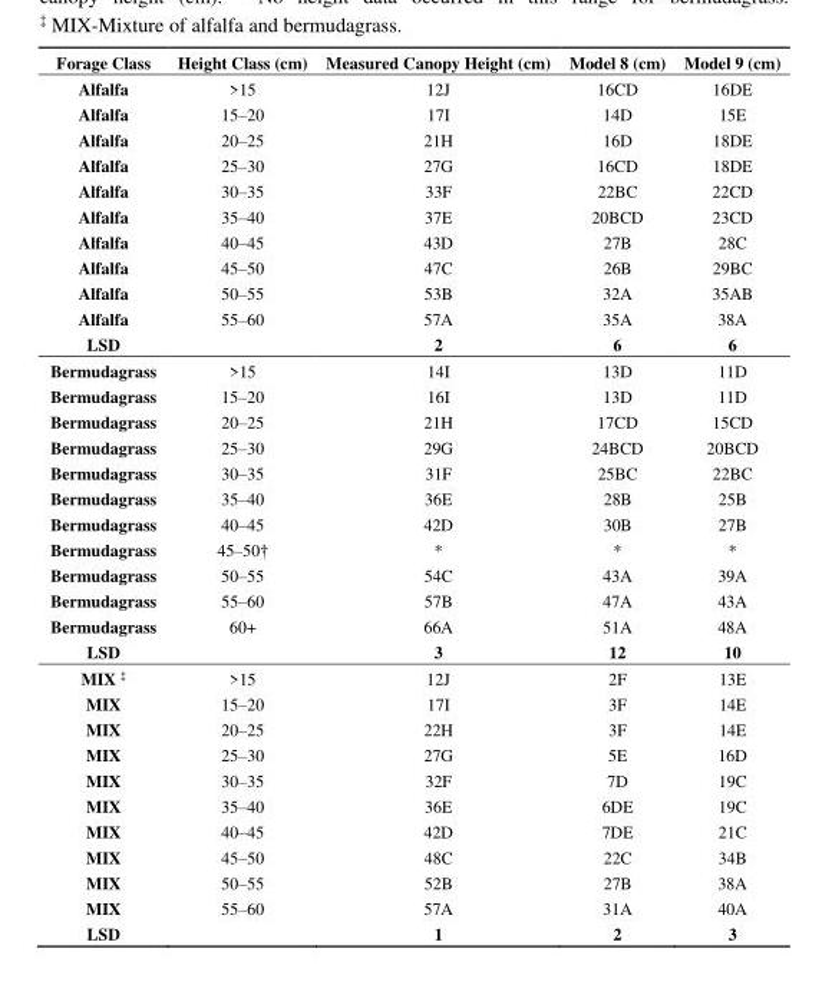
<table><thead><tr><td>Forage Class</td><td>Height Class (cm)</td><td>Measured Canopy Height (cm)</td><td>Model 8 (cm)</td><td>Model 9 (cm)</td></tr></thead><tbody><tr><td>Alfalfa</td><td>&gt;15</td><td>12J</td><td>16CD</td><td>16DE</td></tr><tr><td>Alfalfa</td><td>15–20</td><td>17I</td><td>14D</td><td>15E</td></tr><tr><td>Alfalfa</td><td>20–25</td><td>21H</td><td>16D</td><td>18DE</td></tr><tr><td>Alfalfa</td><td>25–30</td><td>27G</td><td>16CD</td><td>18DE</td></tr><tr><td>Alfalfa</td><td>30–35</td><td>33F</td><td>22BC</td><td>22CD</td></tr><tr><td>Alfalfa</td><td>35–40</td><td>37E</td><td>20BCD</td><td>23CD</td></tr><tr><td>Alfalfa</td><td>40–45</td><td>43D</td><td>27B</td><td>28C</td></tr><tr><td>Alfalfa</td><td>45–50</td><td>47C</td><td>26B</td><td>29BC</td></tr><tr><td>Alfalfa</td><td>50–55</td><td>53B</td><td>32A</td><td>35AB</td></tr><tr><td>Alfalfa</td><td>55–60</td><td>57A</td><td>35A</td><td>38A</td></tr><tr><td>LSD</td><td></td><td>2</td><td>6</td><td>6</td></tr><tr><td>Bermudagrass</td><td>&gt;15</td><td>14I</td><td>13D</td><td>11D</td></tr><tr><td>Bermudagrass</td><td>15–20</td><td>16I</td><td>13D</td><td>11D</td></tr><tr><td>Bermudagrass</td><td>20–25</td><td>21H</td><td>17CD</td><td>15CD</td></tr><tr><td>Bermudagrass</td><td>25–30</td><td>29G</td><td>24BCD</td><td>20BCD</td></tr><tr><td>Bermudagrass</td><td>30–35</td><td>31F</td><td>25BC</td><td>22BC</td></tr><tr><td>Bermudagrass</td><td>35–40</td><td>36E</td><td>28B</td><td>25B</td></tr><tr><td>Bermudagrass</td><td>40–45</td><td>42D</td><td>30B</td><td>27B</td></tr><tr><td>Bermudagrass</td><td>45–50†</td><td>*</td><td>*</td><td>*</td></tr><tr><td>Bermudagrass</td><td>50–55</td><td>54C</td><td>43A</td><td>39A</td></tr><tr><td>Bermudagrass</td><td>55–60</td><td>57B</td><td>47A</td><td>43A</td></tr><tr><td>Bermudagrass</td><td>60+</td><td>66A</td><td>51A</td><td>48A</td></tr><tr><td>LSD</td><td></td><td>3</td><td>12</td><td>10</td></tr><tr><td>MIX <sup>‡</sup></td><td>&gt;15</td><td>12J</td><td>2F</td><td>13E</td></tr><tr><td>MIX</td><td>15–20</td><td>17I</td><td>3F</td><td>14E</td></tr><tr><td>MIX</td><td>20–25</td><td>22H</td><td>3F</td><td>14E</td></tr><tr><td>MIX</td><td>25–30</td><td>27G</td><td>5E</td><td>16D</td></tr><tr><td>MIX</td><td>30–35</td><td>32F</td><td>7D</td><td>19C</td></tr><tr><td>MIX</td><td>35–40</td><td>36E</td><td>6DE</td><td>19C</td></tr><tr><td>MIX</td><td>40–45</td><td>42D</td><td>7DE</td><td>21C</td></tr><tr><td>MIX</td><td>45–50</td><td>48C</td><td>22C</td><td>34B</td></tr><tr><td>MIX</td><td>50–55</td><td>52B</td><td>27B</td><td>38A</td></tr><tr><td>MIX</td><td>55–60</td><td>57A</td><td>31A</td><td>40A</td></tr><tr><td>LSD</td><td></td><td>1</td><td>2</td><td>3</td></tr></tbody></table>